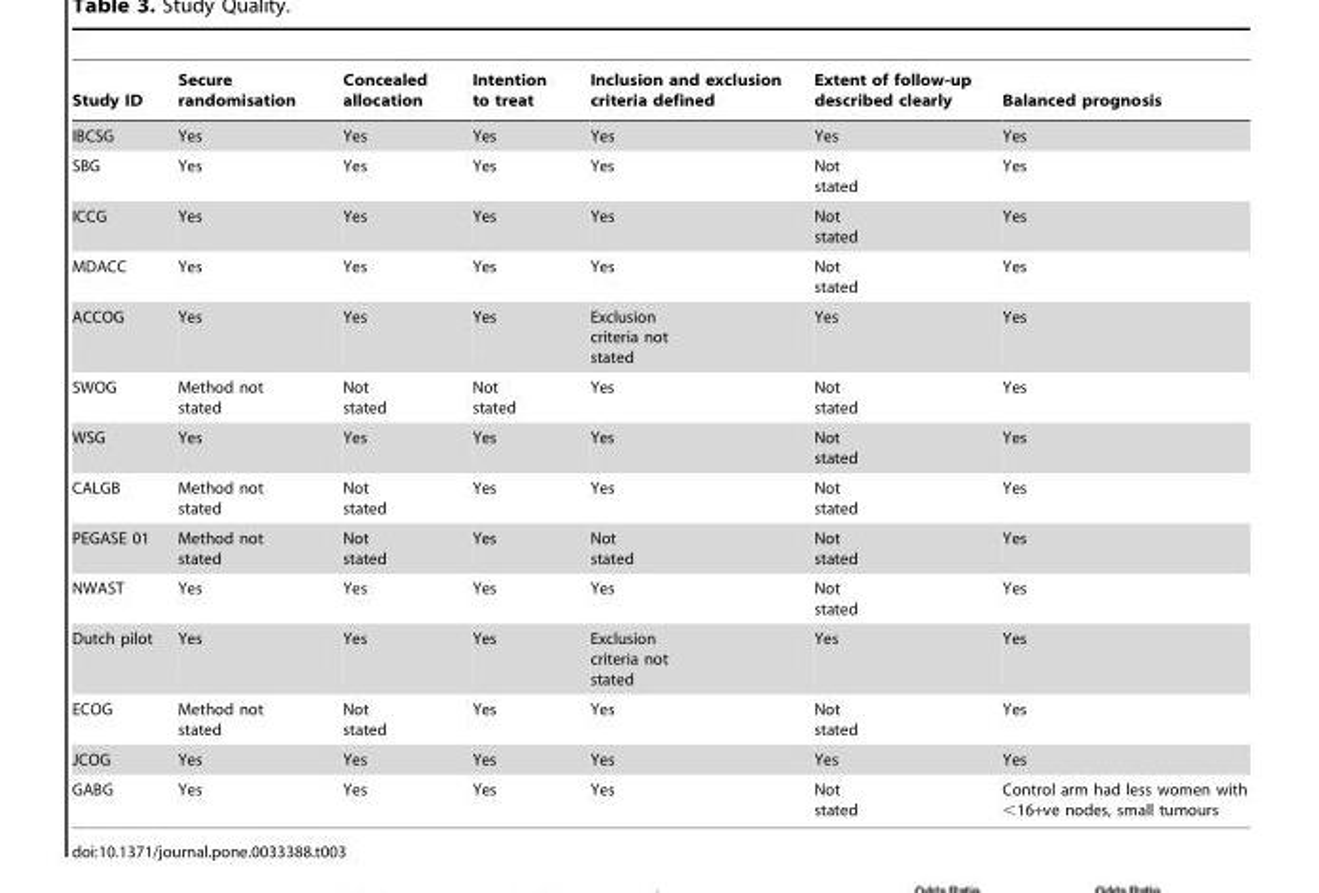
<table><thead><tr><td>Study ID</td><td>Secure randomisation</td><td>Concealed allocation</td><td>Intention to treat</td><td>Inclusion and exclusion criteria defined</td><td>Extent of follow-up described clearly</td><td>Balanced prognosis</td></tr></thead><tbody><tr><td>IBCSG</td><td>Yes</td><td>Yes</td><td>Yes</td><td>Yes</td><td>Yes</td><td>Yes</td></tr><tr><td>SBG</td><td>Yes</td><td>Yes</td><td>Yes</td><td>Yes</td><td>Not stated</td><td>Yes</td></tr><tr><td>ICCG</td><td>Yes</td><td>Yes</td><td>Yes</td><td>Yes</td><td>Not stated</td><td>Yes</td></tr><tr><td>MDACC</td><td>Yes</td><td>Yes</td><td>Yes</td><td>Yes</td><td>Not stated</td><td>Yes</td></tr><tr><td>ACCOG</td><td>Yes</td><td>Yes</td><td>Yes</td><td>Exclusion criteria not stated</td><td>Yes</td><td>Yes</td></tr><tr><td>SWOG</td><td>Method not stated</td><td>Not stated</td><td>Not stated</td><td>Yes</td><td>Not stated</td><td>Yes</td></tr><tr><td>WSG</td><td>Yes</td><td>Yes</td><td>Yes</td><td>Yes</td><td>Not stated</td><td>Yes</td></tr><tr><td>CALGB</td><td>Method not stated</td><td>Not stated</td><td>Yes</td><td>Yes</td><td>Not stated</td><td>Yes</td></tr><tr><td>PEGASE 01</td><td>Method not stated</td><td>Not stated</td><td>Yes</td><td>Not stated</td><td>Not stated</td><td>Yes</td></tr><tr><td>NWAST</td><td>Yes</td><td>Yes</td><td>Yes</td><td>Yes</td><td>Not stated</td><td>Yes</td></tr><tr><td>Dutch pilot</td><td>Yes</td><td>Yes</td><td>Yes</td><td>Exclusion criteria not stated</td><td>Yes</td><td>Yes</td></tr><tr><td>ECOG</td><td>Method not stated</td><td>Not stated</td><td>Yes</td><td>Yes</td><td>Not stated</td><td>Yes</td></tr><tr><td>JCOG</td><td>Yes</td><td>Yes</td><td>Yes</td><td>Yes</td><td>Yes</td><td>Yes</td></tr><tr><td>GABG</td><td>Yes</td><td>Yes</td><td>Yes</td><td>Yes</td><td>Not stated</td><td>Control arm had less women with &lt;16+ve nodes, small tumours</td></tr></tbody></table>